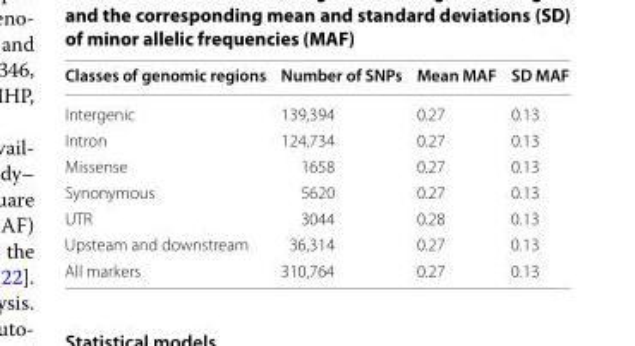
<table><thead><tr><td>Classes of genomic regions</td><td>Number of SNPs</td><td>Mean MAF</td><td>SD MAF</td></tr></thead><tbody><tr><td>Intergenic</td><td>139,394</td><td>0.27</td><td>0.13</td></tr><tr><td>Intron</td><td>124,734</td><td>0.27</td><td>0.13</td></tr><tr><td>Missense</td><td>1658</td><td>0.27</td><td>0.13</td></tr><tr><td>Synonymous</td><td>5620</td><td>0.27</td><td>0.13</td></tr><tr><td>UTR</td><td>3044</td><td>0.28</td><td>0.13</td></tr><tr><td>Upsteam and downstream</td><td>36,314</td><td>0.27</td><td>0.13</td></tr><tr><td>All markers</td><td>310,764</td><td>0.27</td><td>0.13</td></tr></tbody></table>